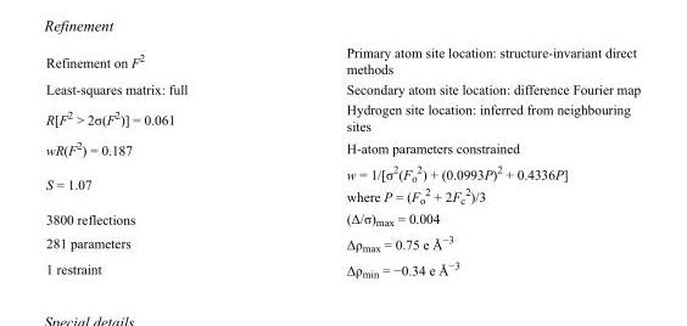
<table><tbody><tr><td>Refinement on F<sup>2</sup></td><td>Primary atom site location: structure-invariant direct methods</td></tr><tr><td>Least-squares matrix: full</td><td>Secondary atom site location: difference Fourier map</td></tr><tr><td>R[F<sup>2</sup> &gt; 2σ(F<sup>2</sup>)] = 0.061</td><td>Hydrogen site location: inferred from neighbouring sites</td></tr><tr><td>wR(F<sup>2</sup>) = 0.187</td><td>H-atom parameters constrained</td></tr><tr><td>S = 1.07</td><td>w = 1/[σ<sup>2</sup>(F<sub>o</sub> <sup>2</sup>) + (0.0993P)<sup>2</sup> + 0.4336P] where P = (F<sub>o</sub> <sup>2</sup> + 2F<sub>c</sub> <sup>2</sup>)/3</td></tr><tr><td>3800 reflections</td><td>(Δ/σ)<sub>max</sub> = 0.004</td></tr><tr><td>281 parameters</td><td>Δρ<sub>max</sub> = 0.75 e Å<sup>−3</sup></td></tr><tr><td>1 restraint</td><td>Δρ<sub>min</sub> = −0.34 e Å<sup>−3</sup></td></tr></tbody></table>